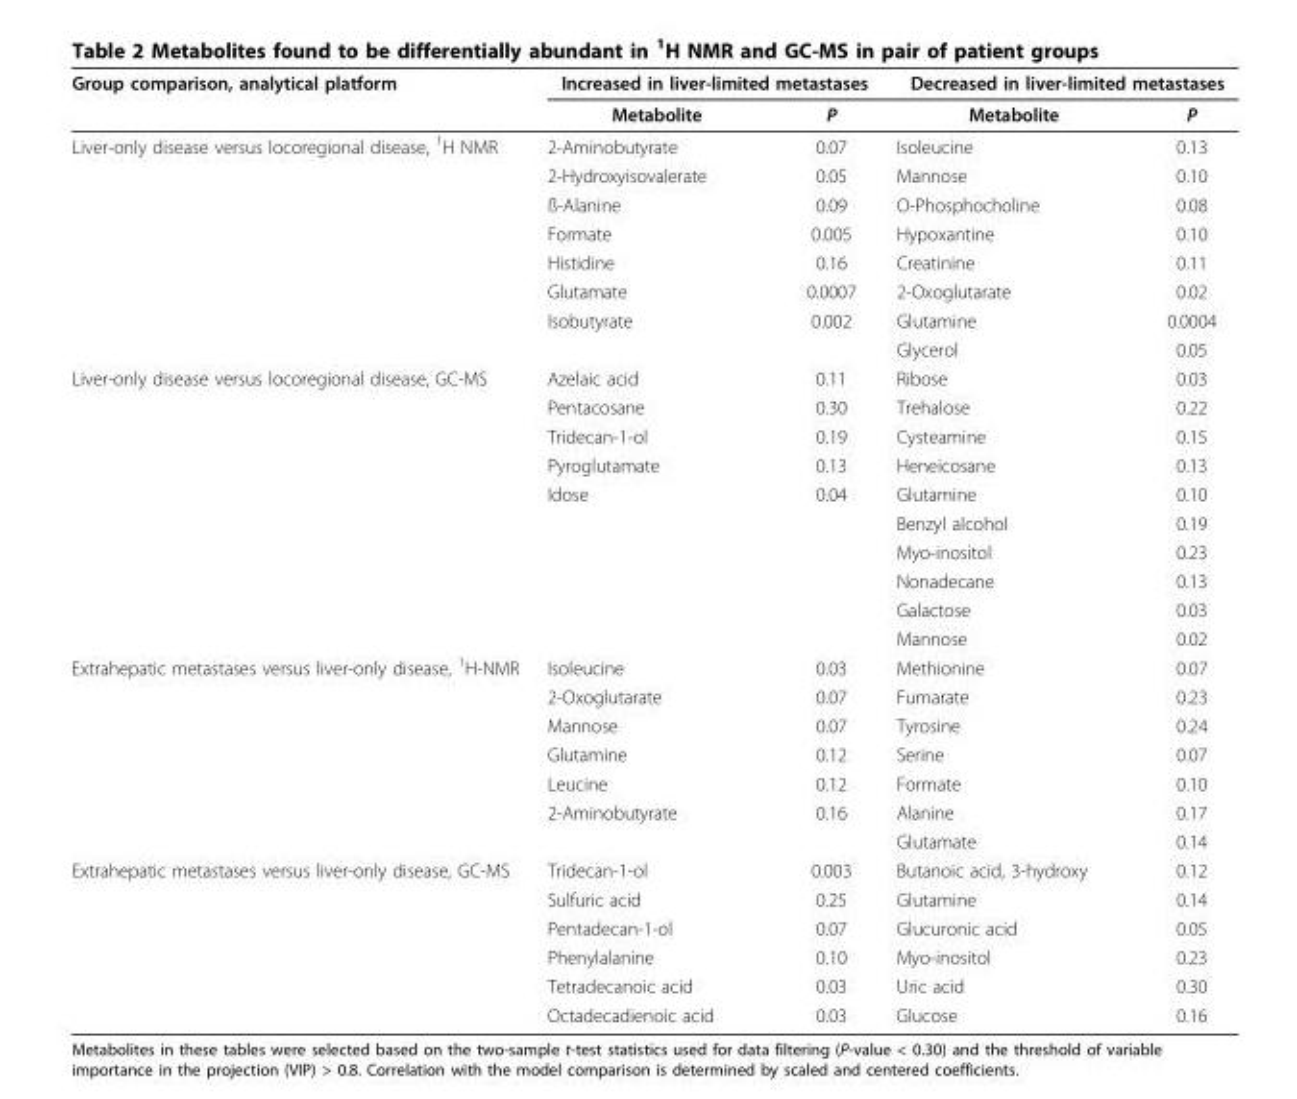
<table><thead><tr><td rowspan="2">Group comparison, analytical platform</td><td colspan="2">Increased in liver-limited metastases</td><td colspan="2">Decreased in liver-limited metastases</td></tr><tr><td>Metabolite</td><td>P</td><td>Metabolite</td><td>P</td></tr></thead><tbody><tr><td rowspan="8">Liver-only disease versus locoregional disease, <sup>1</sup>H NMR</td><td>2-Aminobutyrate</td><td>0.07</td><td>Isoleucine</td><td>0.13</td></tr><tr><td>2-Hydroxyisovalerate</td><td>0.05</td><td>Mannose</td><td>0.10</td></tr><tr><td>ß-Alanine</td><td>0.09</td><td>O-Phosphocholine</td><td>0.08</td></tr><tr><td>Formate</td><td>0.005</td><td>Hypoxantine</td><td>0.10</td></tr><tr><td>Histidine</td><td>0.16</td><td>Creatinine</td><td>0.11</td></tr><tr><td>Glutamate</td><td>0.0007</td><td>2-Oxoglutarate</td><td>0.02</td></tr><tr><td>Isobutyrate</td><td>0.002</td><td>Glutamine</td><td>0.0004</td></tr><tr><td></td><td></td><td>Glycerol</td><td>0.05</td></tr><tr><td rowspan="10">Liver-only disease versus locoregional disease, GC-MS</td><td>Azelaic acid</td><td>0.11</td><td>Ribose</td><td>0.03</td></tr><tr><td>Pentacosane</td><td>0.30</td><td>Trehalose</td><td>0.22</td></tr><tr><td>Tridecan-1-ol</td><td>0.19</td><td>Cysteamine</td><td>0.15</td></tr><tr><td>Pyroglutamate</td><td>0.13</td><td>Heneicosane</td><td>0.13</td></tr><tr><td>Idose</td><td>0.04</td><td>Glutamine</td><td>0.10</td></tr><tr><td></td><td></td><td>Benzyl alcohol</td><td>0.19</td></tr><tr><td></td><td></td><td>Myo-inositol</td><td>0.23</td></tr><tr><td></td><td></td><td>Nonadecane</td><td>0.13</td></tr><tr><td></td><td></td><td>Galactose</td><td>0.03</td></tr><tr><td></td><td></td><td>Mannose</td><td>0.02</td></tr><tr><td rowspan="7">Extrahepatic metastases versus liver-only disease, <sup>1</sup>H-NMR</td><td>Isoleucine</td><td>0.03</td><td>Methionine</td><td>0.07</td></tr><tr><td>2-Oxoglutarate</td><td>0.07</td><td>Fumarate</td><td>0.23</td></tr><tr><td>Mannose</td><td>0.07</td><td>Tyrosine</td><td>0.24</td></tr><tr><td>Glutamine</td><td>0.12</td><td>Serine</td><td>0.07</td></tr><tr><td>Leucine</td><td>0.12</td><td>Formate</td><td>0.10</td></tr><tr><td>2-Aminobutyrate</td><td>0.16</td><td>Alanine</td><td>0.17</td></tr><tr><td></td><td></td><td>Glutamate</td><td>0.14</td></tr><tr><td rowspan="6">Extrahepatic metastases versus liver-only disease, GC-MS</td><td>Tridecan-1-ol</td><td>0.003</td><td>Butanoic acid, 3-hydroxy</td><td>0.12</td></tr><tr><td>Sulfuric acid</td><td>0.25</td><td>Glutamine</td><td>0.14</td></tr><tr><td>Pentadecan-1-ol</td><td>0.07</td><td>Glucuronic acid</td><td>0.05</td></tr><tr><td>Phenylalanine</td><td>0.10</td><td>Myo-inositol</td><td>0.23</td></tr><tr><td>Tetradecanoic acid</td><td>0.03</td><td>Uric acid</td><td>0.30</td></tr><tr><td>Octadecadienoic acid</td><td>0.03</td><td>Glucose</td><td>0.16</td></tr></tbody></table>